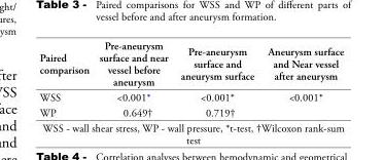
<table><thead><tr><td>Paired comparison</td><td>Pre-aneurysm surface and near vessel before aneurysm</td><td>Pre-aneurysm surface and aneurysm surface</td><td>Aneurysm surface and Near vessel after aneurysm</td></tr></thead><tbody><tr><td>WSS</td><td>&lt;0.001*</td><td>&lt;0.001*</td><td>&lt;0.001*</td></tr><tr><td>WP</td><td>0.649†</td><td>0.719†</td><td></td></tr></tbody></table>